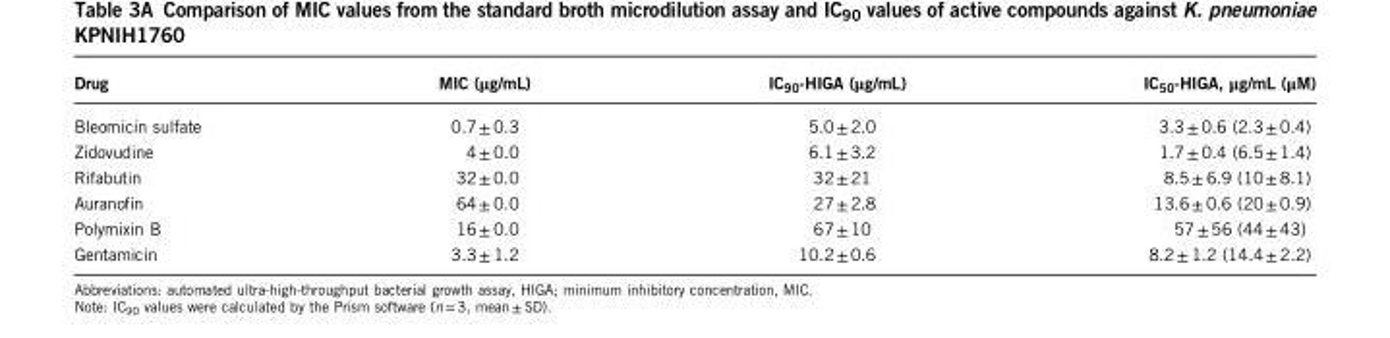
<table><thead><tr><td>Drug</td><td>MIC (μg/mL)</td><td>IC<sub>90</sub>-HIGA (μg/mL)</td><td>IC<sub>50</sub>-HIGA, μg/mL (μM)</td></tr></thead><tbody><tr><td>Bleomicin sulfate</td><td>0.7 ± 0.3</td><td>5.0 ± 2.0</td><td>3.3 ± 0.6 (2.3± 0.4)</td></tr><tr><td>Zidovudine</td><td>4 ± 0.0</td><td>6.1 ± 3.2</td><td>1.7 ± 0.4 (6.5± 1.4)</td></tr><tr><td>Rifabutin</td><td>32± 0.0</td><td>32± 21</td><td>8.5 ± 6.9 (10 ± 8.1)</td></tr><tr><td>Auranofin</td><td>64± 0.0</td><td>27± 2.8</td><td>13.6 ± 0.6 (20 ± 0.9)</td></tr><tr><td>Polymixin B</td><td>16± 0.0</td><td>67± 10</td><td>57± 56 (44 ± 43)</td></tr><tr><td>Gentamicin</td><td>3.3 ± 1.2</td><td>10.2± 0.6</td><td>8.2 ± 1.2 (14.4 ± 2.2)</td></tr></tbody></table>